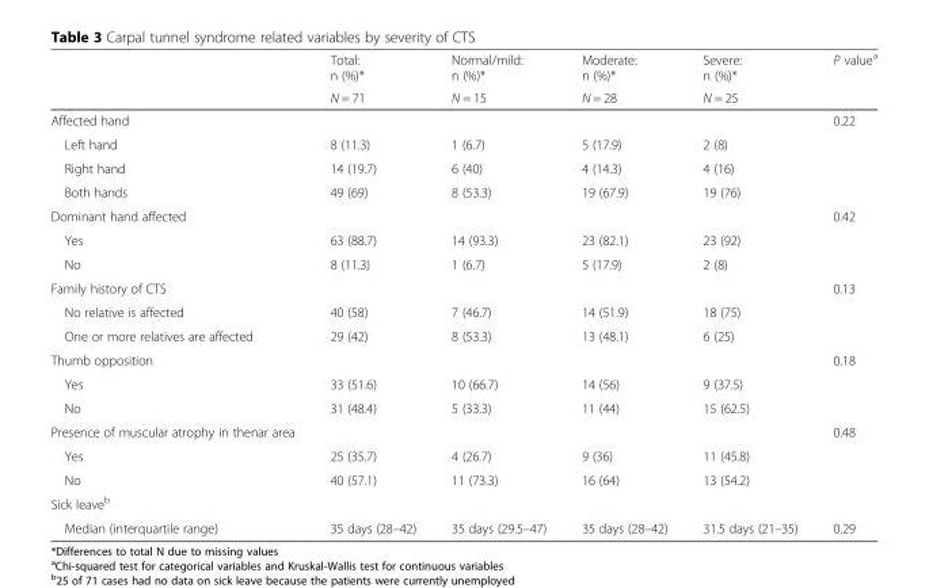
<table><thead><tr><td rowspan="2"></td><td rowspan="2">Total: n (%)* N = 71</td><td rowspan="2">Normal/mild: n (%)* N = 15</td><td rowspan="2">Moderate: n (%)* N = 28</td><td rowspan="2">Severe: n (%)* N = 25</td><td rowspan="2">P value<sup>a</sup></td></tr><tr></tr></thead><tbody><tr><td>Affected hand</td><td></td><td></td><td></td><td></td><td>0.22</td></tr><tr><td>Left hand</td><td>8 (11.3)</td><td>1 (6.7)</td><td>5 (17.9)</td><td>2 (8)</td><td></td></tr><tr><td>Right hand</td><td>14 (19.7)</td><td>6 (40)</td><td>4 (14.3)</td><td>4 (16)</td><td></td></tr><tr><td>Both hands</td><td>49 (69)</td><td>8 (53.3)</td><td>19 (67.9)</td><td>19 (76)</td><td></td></tr><tr><td>Dominant hand affected</td><td></td><td></td><td></td><td></td><td>0.42</td></tr><tr><td>Yes</td><td>63 (88.7)</td><td>14 (93.3)</td><td>23 (82.1)</td><td>23 (92)</td><td></td></tr><tr><td>No</td><td>8 (11.3)</td><td>1 (6.7)</td><td>5 (17.9)</td><td>2 (8)</td><td></td></tr><tr><td>Family history of CTS</td><td></td><td></td><td></td><td></td><td>0.13</td></tr><tr><td>No relative is affected</td><td>40 (58)</td><td>7 (46.7)</td><td>14 (51.9)</td><td>18 (75)</td><td></td></tr><tr><td>One or more relatives are affected</td><td>29 (42)</td><td>8 (53.3)</td><td>13 (48.1)</td><td>6 (25)</td><td></td></tr><tr><td>Thumb opposition</td><td></td><td></td><td></td><td></td><td>0.18</td></tr><tr><td>Yes</td><td>33 (51.6)</td><td>10 (66.7)</td><td>14 (56)</td><td>9 (37.5)</td><td></td></tr><tr><td>No</td><td>31 (48.4)</td><td>5 (33.3)</td><td>11 (44)</td><td>15 (62.5)</td><td></td></tr><tr><td>Presence of muscular atrophy in thenar area</td><td></td><td></td><td></td><td></td><td>0.48</td></tr><tr><td>Yes</td><td>25 (35.7)</td><td>4 (26.7)</td><td>9 (36)</td><td>11 (45.8)</td><td></td></tr><tr><td>No</td><td>40 (57.1)</td><td>11 (73.3)</td><td>16 (64)</td><td>13 (54.2)</td><td></td></tr><tr><td colspan="6">Sick leave<sup>b</sup></td></tr><tr><td>Median (interquartile range)</td><td>35 days (28–42)</td><td>35 days (29.5–47)</td><td>35 days (28–42)</td><td>31.5 days (21–35)</td><td>0.29</td></tr></tbody></table>